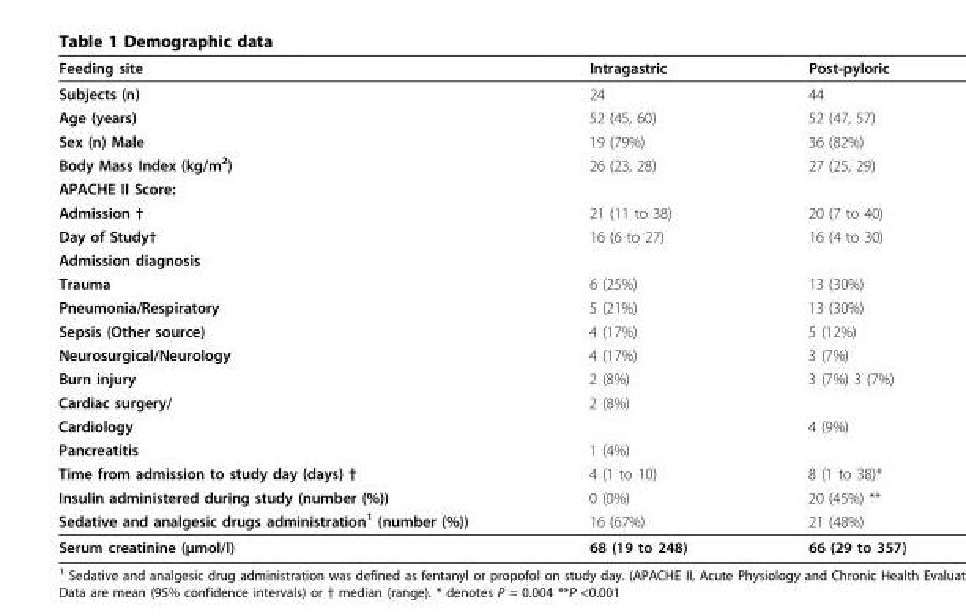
<table><thead><tr><td>Feeding site</td><td>Intragastric</td><td>Post-pyloric</td></tr></thead><tbody><tr><td>Subjects (n)</td><td>24</td><td>44</td></tr><tr><td>Age (years)</td><td>52 (45, 60)</td><td>52 (47, 57)</td></tr><tr><td>Sex (n) Male</td><td>19 (79%)</td><td>36 (82%)</td></tr><tr><td>Body Mass Index (kg/m<sup>2</sup>)</td><td>26 (23, 28)</td><td>27 (25, 29)</td></tr><tr><td colspan="3">APACHE II Score:</td></tr><tr><td>Admission †</td><td>21 (11 to 38)</td><td>20 (7 to 40)</td></tr><tr><td>Day of Study†</td><td>16 (6 to 27)</td><td>16 (4 to 30)</td></tr><tr><td colspan="3">Admission diagnosis</td></tr><tr><td>Trauma</td><td>6 (25%)</td><td>13 (30%)</td></tr><tr><td>Pneumonia/Respiratory</td><td>5 (21%)</td><td>13 (30%)</td></tr><tr><td>Sepsis (Other source)</td><td>4 (17%)</td><td>5 (12%)</td></tr><tr><td>Neurosurgical/Neurology</td><td>4 (17%)</td><td>3 (7%)</td></tr><tr><td>Burn injury</td><td>2 (8%)</td><td>3 (7%) 3 (7%)</td></tr><tr><td>Cardiac surgery/</td><td>2 (8%)</td><td></td></tr><tr><td>Cardiology</td><td></td><td>4 (9%)</td></tr><tr><td>Pancreatitis</td><td>1 (4%)</td><td></td></tr><tr><td>Time from admission to study day (days) †</td><td>4 (1 to 10)</td><td>8 (1 to 38)*</td></tr><tr><td>Insulin administered during study (number (%))</td><td>0 (0%)</td><td>20 (45%) **</td></tr><tr><td>Sedative and analgesic drugs administration<sup>1</sup> (number (%))</td><td>16 (67%)</td><td>21 (48%)</td></tr><tr><td>Serum creatinine (μmol/l)</td><td>68 (19 to 248)</td><td>66 (29 to 357)</td></tr></tbody></table>